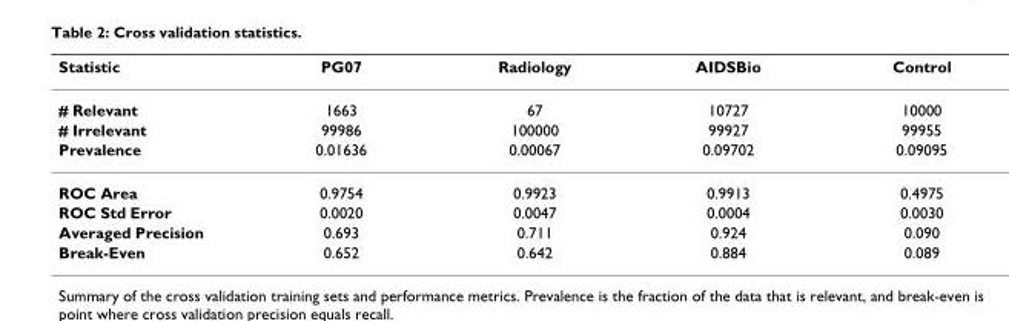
<table><thead><tr><td>Statistic</td><td>PG07</td><td>Radiology</td><td>AIDSBio</td><td>Control</td></tr></thead><tbody><tr><td># Relevant</td><td>1663</td><td>67</td><td>10727</td><td>10000</td></tr><tr><td># Irrelevant</td><td>99986</td><td>100000</td><td>99927</td><td>99955</td></tr><tr><td>Prevalence</td><td>0.01636</td><td>0.00067</td><td>0.09702</td><td>0.09095</td></tr><tr><td>ROC Area</td><td>0.9754</td><td>0.9923</td><td>0.9913</td><td>0.4975</td></tr><tr><td>ROC Std Error</td><td>0.0020</td><td>0.0047</td><td>0.0004</td><td>0.0030</td></tr><tr><td>Averaged Precision</td><td>0.693</td><td>0.711</td><td>0.924</td><td>0.090</td></tr><tr><td>Break-Even</td><td>0.652</td><td>0.642</td><td>0.884</td><td>0.089</td></tr></tbody></table>